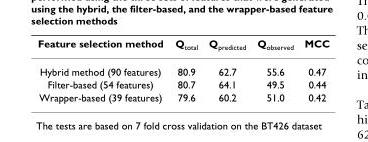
<table><thead><tr><td>Feature selection method</td><td>Q<sub>total</sub></td><td>Q<sub>predicted</sub></td><td>Q<sub>observed</sub></td><td>MCC</td></tr></thead><tbody><tr><td>Hybrid method (90 features)</td><td>80.9</td><td>62.7</td><td>55.6</td><td>0.47</td></tr><tr><td>Filter-based (54 features)</td><td>80.7</td><td>64.1</td><td>49.5</td><td>0.44</td></tr><tr><td>Wrapper-based (39 features)</td><td>79.6</td><td>60.2</td><td>51.0</td><td>0.42</td></tr></tbody></table>